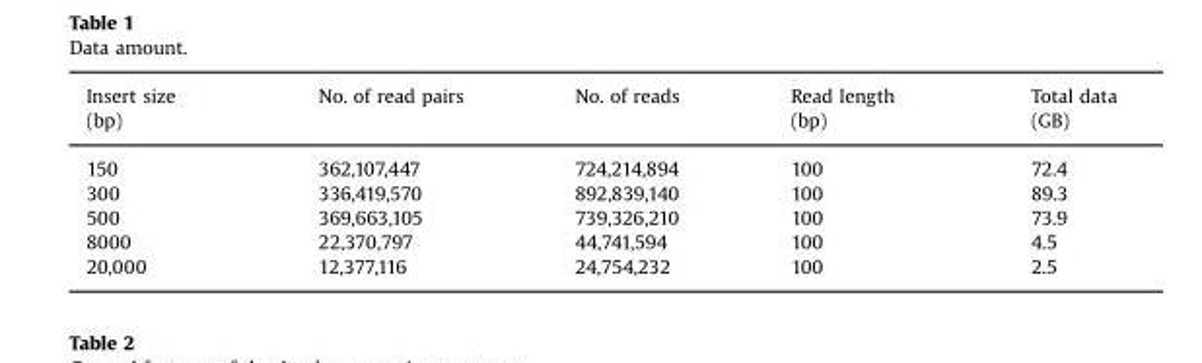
<table><thead><tr><td>Insert size (bp)</td><td>No. of read pairs</td><td>No. of reads</td><td>Read length (bp)</td><td>Total data (GB)</td></tr></thead><tbody><tr><td>150</td><td>362,107,447</td><td>724,214,894</td><td>100</td><td>72.4</td></tr><tr><td>300</td><td>336,419,570</td><td>892,839,140</td><td>100</td><td>89.3</td></tr><tr><td>500</td><td>369,663,105</td><td>739,326,210</td><td>100</td><td>73.9</td></tr><tr><td>8000</td><td>22,370,797</td><td>44,741,594</td><td>100</td><td>4.5</td></tr><tr><td>20,000</td><td>12,377,116</td><td>24,754,232</td><td>100</td><td>2.5</td></tr></tbody></table>